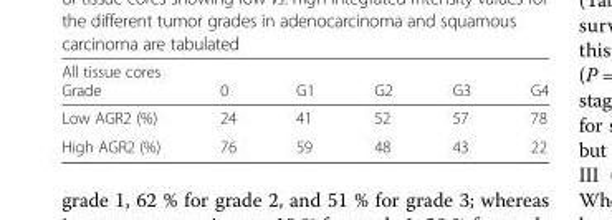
<table><thead><tr><td colspan="6">All tissue cores</td></tr><tr><td>Grade</td><td>0</td><td>G1</td><td>G2</td><td>G3</td><td>G4</td></tr></thead><tbody><tr><td>Low AGR2 (%)</td><td>24</td><td>41</td><td>52</td><td>57</td><td>78</td></tr><tr><td>High AGR2 (%)</td><td>76</td><td>59</td><td>48</td><td>43</td><td>22</td></tr></tbody></table>